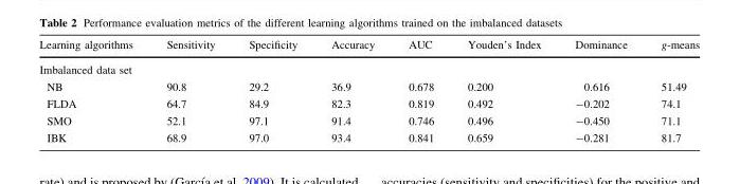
<table><thead><tr><td>Learning algorithms</td><td>Sensitivity</td><td>Specificity</td><td>Accuracy</td><td>AUC</td><td>Youden’s Index</td><td>Dominance</td><td>g-means</td></tr></thead><tbody><tr><td colspan="8">Imbalanced data set</td></tr><tr><td>NB</td><td>90.8</td><td>29.2</td><td>36.9</td><td>0.678</td><td>0.200</td><td>0.616</td><td>51.49</td></tr><tr><td>FLDA</td><td>64.7</td><td>84.9</td><td>82.3</td><td>0.819</td><td>0.492</td><td>-0.202</td><td>74.1</td></tr><tr><td>SMO</td><td>52.1</td><td>97.1</td><td>91.4</td><td>0.746</td><td>0.496</td><td>-0.450</td><td>71.1</td></tr><tr><td>IBK</td><td>68.9</td><td>97.0</td><td>93.4</td><td>0.841</td><td>0.659</td><td>-0.281</td><td>81.7</td></tr></tbody></table>